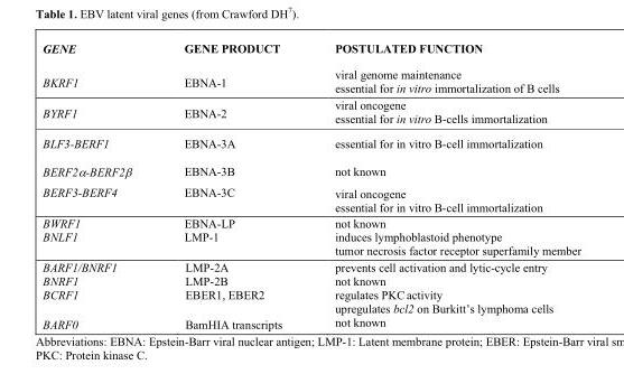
<table><thead><tr><td>GENE</td><td>GENE PRODUCT</td><td>POSTULATED FUNCTION</td></tr></thead><tbody><tr><td>BKRF1</td><td>EBNA-1</td><td>viral genome maintenance essential for in vitro immortalization of B cells</td></tr><tr><td>BYRF1</td><td>EBNA-2</td><td>viral oncogene essential for in vitro B-cells immortalization</td></tr><tr><td>BLF3-BERF1</td><td>EBNA-3A</td><td>essential for in vitro B-cell immortalization</td></tr><tr><td>BERF2α-BERF2β</td><td>EBNA-3B</td><td>not known</td></tr><tr><td>BERF3-BERF4</td><td>EBNA-3C</td><td>viral oncogene essential for in vitro B-cell immortalization</td></tr><tr><td>BWRF1</td><td>EBNA-LP</td><td>not known</td></tr><tr><td>BNLF1</td><td>LMP-1</td><td>induces lymphoblastoid phenotype tumor necrosis factor receptor superfamily member</td></tr><tr><td>BARF1/BNRF1</td><td>LMP-2A</td><td>prevents cell activation and lytic-cycle entry</td></tr><tr><td>BNRF1</td><td>LMP-2B</td><td>not known</td></tr><tr><td>BCRF1</td><td>EBER1, EBER2</td><td>regulates PKC activity upregulates bcl2 on Burkitt’s lymphoma cells</td></tr><tr><td>BARF0</td><td>BamHIA transcripts</td><td>not known</td></tr></tbody></table>